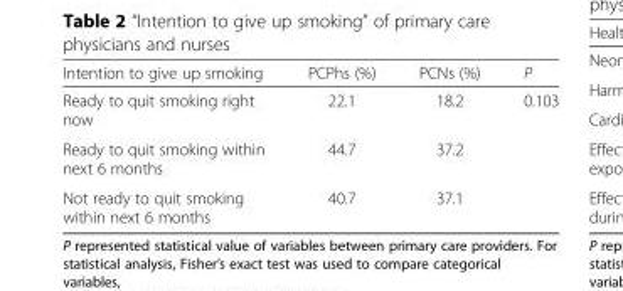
<table><thead><tr><td>Intention to give up smoking</td><td>PCPhs (%)</td><td>PCNs (%)</td><td>P</td></tr></thead><tbody><tr><td>Ready to quit smoking right now</td><td>22.1</td><td>18.2</td><td rowspan="3">0.103</td></tr><tr><td>Ready to quit smoking within next 6 months</td><td>44.7</td><td>37.2</td></tr><tr><td>Not ready to quit smoking within next 6 months</td><td>40.7</td><td>37.1</td></tr></tbody></table>